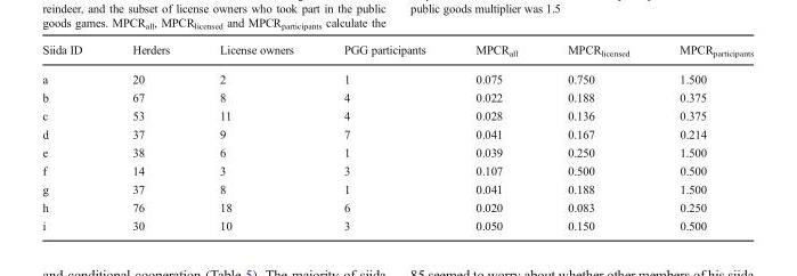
<table><thead><tr><td>Siida ID</td><td>Herders</td><td>License owners</td><td>PGG participants</td><td>MPCR<sub>all</sub></td><td>MPCR<sub>licensed</sub></td><td>MPCR<sub>participants</sub></td></tr></thead><tbody><tr><td>a</td><td>20</td><td>2</td><td>1</td><td>0.075</td><td>0.750</td><td>1.500</td></tr><tr><td>b</td><td>67</td><td>8</td><td>4</td><td>0.022</td><td>0.188</td><td>0.375</td></tr><tr><td>c</td><td>53</td><td>11</td><td>4</td><td>0.028</td><td>0.136</td><td>0.375</td></tr><tr><td>d</td><td>37</td><td>9</td><td>7</td><td>0.041</td><td>0.167</td><td>0.214</td></tr><tr><td>e</td><td>38</td><td>6</td><td>1</td><td>0.039</td><td>0.250</td><td>1.500</td></tr><tr><td>f</td><td>14</td><td>3</td><td>3</td><td>0.107</td><td>0.500</td><td>0.500</td></tr><tr><td>g</td><td>37</td><td>8</td><td>1</td><td>0.041</td><td>0.188</td><td>1.500</td></tr><tr><td>h</td><td>76</td><td>18</td><td>6</td><td>0.020</td><td>0.083</td><td>0.250</td></tr><tr><td>i</td><td>30</td><td>10</td><td>3</td><td>0.050</td><td>0.150</td><td>0.500</td></tr></tbody></table>